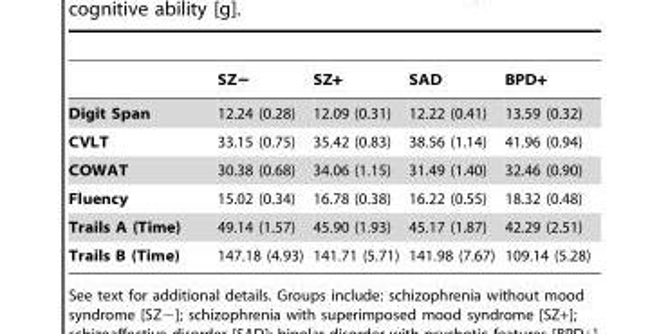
<table><thead><tr><td></td><td>SZ−</td><td>SZ+</td><td>SAD</td><td>BPD+</td></tr></thead><tbody><tr><td>Digit Span</td><td>12.24 (0.28)</td><td>12.09 (0.31)</td><td>12.22 (0.41)</td><td>13.59 (0.32)</td></tr><tr><td>CVLT</td><td>33.15 (0.75)</td><td>35.42 (0.83)</td><td>38.56 (1.14)</td><td>41.96 (0.94)</td></tr><tr><td>COWAT</td><td>30.38 (0.68)</td><td>34.06 (1.15)</td><td>31.49 (1.40)</td><td>32.46 (0.90)</td></tr><tr><td>Fluency</td><td>15.02 (0.34)</td><td>16.78 (0.38)</td><td>16.22 (0.55)</td><td>18.32 (0.48)</td></tr><tr><td>Trails A (Time)</td><td>49.14 (1.57)</td><td>45.90 (1.93)</td><td>45.17 (1.87)</td><td>42.29 (2.51)</td></tr><tr><td>Trails B (Time)</td><td>147.18 (4.93)</td><td>141.71 (5.71)</td><td>141.98 (7.67)</td><td>109.14 (5.28)</td></tr></tbody></table>